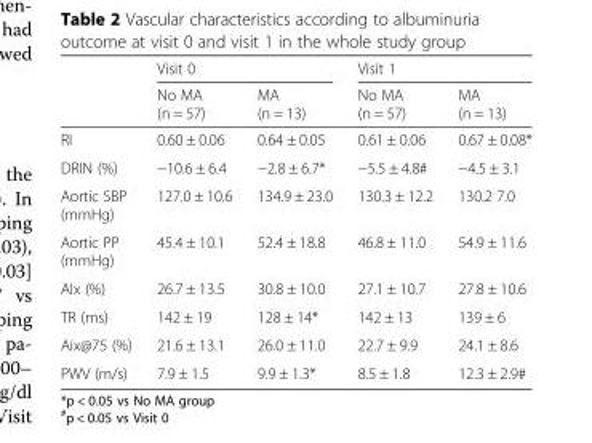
<table><thead><tr><td rowspan="2"></td><td colspan="2">Visit 0</td><td colspan="2">Visit 1</td></tr><tr><td>No MA (n = 57)</td><td>MA (n = 13)</td><td>No MA (n = 57)</td><td>MA (n = 13)</td></tr></thead><tbody><tr><td>RI</td><td>0.60 ± 0.06</td><td>0.64 ± 0.05</td><td>0.61 ± 0.06</td><td>0.67 ± 0.08*</td></tr><tr><td>DRIN (%)</td><td>−10.6 ± 6.4</td><td>−2.8 ± 6.7*</td><td>−5.5 ± 4.8#</td><td>−4.5 ± 3.1</td></tr><tr><td>Aortic SBP (mmHg)</td><td>127.0 ± 10.6</td><td>134.9 ± 23.0</td><td>130.3 ± 12.2</td><td>130.2 7.0</td></tr><tr><td>Aortic PP (mmHg)</td><td>45.4 ± 10.1</td><td>52.4 ± 18.8</td><td>46.8 ± 11.0</td><td>54.9 ± 11.6</td></tr><tr><td>AIx (%)</td><td>26.7 ± 13.5</td><td>30.8 ± 10.0</td><td>27.1 ± 10.7</td><td>27.8 ± 10.6</td></tr><tr><td>TR (ms)</td><td>142 ± 19</td><td>128 ± 14*</td><td>142 ± 13</td><td>139 ± 6</td></tr><tr><td>Aix@75 (%)</td><td>21.6 ± 13.1</td><td>26.0 ± 11.0</td><td>22.7 ± 9.9</td><td>24.1 ± 8.6</td></tr><tr><td>PWV (m/s)</td><td>7.9 ± 1.5</td><td>9.9 ± 1.3*</td><td>8.5 ± 1.8</td><td>12.3 ± 2.9#</td></tr></tbody></table>